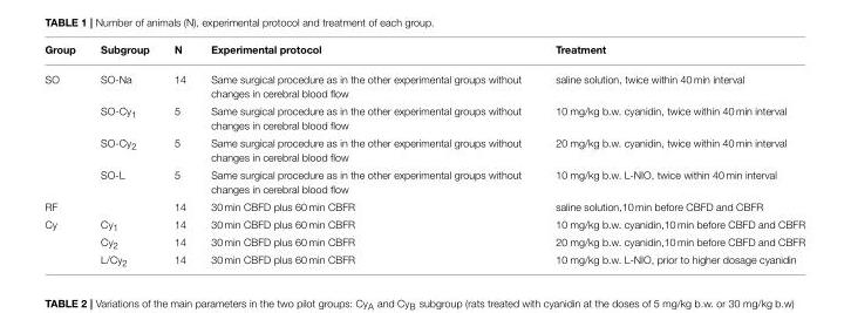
<table><thead><tr><td>Group</td><td>Subgroup</td><td>N</td><td>Experimental protocol</td><td>Treatment</td></tr></thead><tbody><tr><td rowspan="4">SO</td><td>SO-Na</td><td>14</td><td>Same surgical procedure as in the other experimental groups without changes in cerebral blood flow</td><td>saline solution, twice within 40 min interval</td></tr><tr><td>SO-Cy<sub>1</sub></td><td>5</td><td>Same surgical procedure as in the other experimental groups without changes in cerebral blood flow</td><td>10 mg/kg b.w. cyanidin, twice within 40 min interval</td></tr><tr><td>SO-Cy<sub>2</sub></td><td>5</td><td>Same surgical procedure as in the other experimental groups without changes in cerebral blood flow</td><td>20 mg/kg b.w. cyanidin, twice within 40 min interval</td></tr><tr><td>SO-L</td><td>5</td><td>Same surgical procedure as in the other experimental groups without changes in cerebral blood flow</td><td>10 mg/kg b.w. L-NIO, twice within 40 min interval</td></tr><tr><td>RF</td><td></td><td>14</td><td>30 min CBFD plus 60 min CBFR</td><td>saline solution,10 min before CBFD and CBFR</td></tr><tr><td rowspan="3">Cy</td><td>Cy<sub>1</sub></td><td>14</td><td>30 min CBFD plus 60 min CBFR</td><td>10 mg/kg b.w. cyanidin,10 min before CBFD and CBFR</td></tr><tr><td>Cy<sub>2</sub></td><td>14</td><td>30 min CBFD plus 60 min CBFR</td><td>20 mg/kg b.w. cyanidin,10 min before CBFD and CBFR</td></tr><tr><td>L/Cy<sub>2</sub></td><td>14</td><td>30 min CBFD plus 60 min CBFR</td><td>10 mg/kg b.w. L-NIO, prior to higher dosage cyanidin</td></tr></tbody></table>